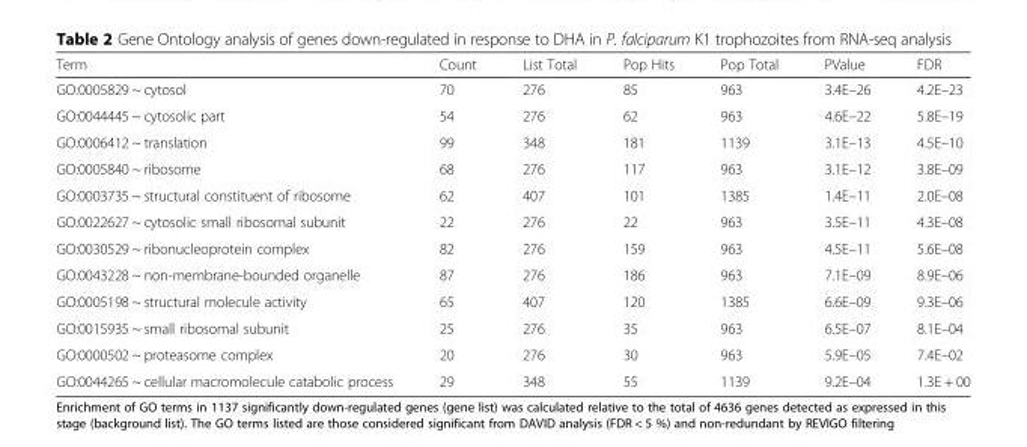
<table><thead><tr><td>Term</td><td>Count</td><td>List Total</td><td>Pop Hits</td><td>Pop Total</td><td>PValue</td><td>FDR</td></tr></thead><tbody><tr><td>GO:0005829 ~ cytosol</td><td>70</td><td>276</td><td>85</td><td>963</td><td>3.4E–26</td><td>4.2E–23</td></tr><tr><td>GO:0044445 ~ cytosolic part</td><td>54</td><td>276</td><td>62</td><td>963</td><td>4.6E–22</td><td>5.8E–19</td></tr><tr><td>GO:0006412 ~ translation</td><td>99</td><td>348</td><td>181</td><td>1139</td><td>3.1E–13</td><td>4.5E–10</td></tr><tr><td>GO:0005840 ~ ribosome</td><td>68</td><td>276</td><td>117</td><td>963</td><td>3.1E–12</td><td>3.8E–09</td></tr><tr><td>GO:0003735 ~ structural constituent of ribosome</td><td>62</td><td>407</td><td>101</td><td>1385</td><td>1.4E–11</td><td>2.0E–08</td></tr><tr><td>GO:0022627 ~ cytosolic small ribosomal subunit</td><td>22</td><td>276</td><td>22</td><td>963</td><td>3.5E–11</td><td>4.3E–08</td></tr><tr><td>GO:0030529 ~ ribonucleoprotein complex</td><td>82</td><td>276</td><td>159</td><td>963</td><td>4.5E–11</td><td>5.6E–08</td></tr><tr><td>GO:0043228 ~ non-membrane-bounded organelle</td><td>87</td><td>276</td><td>186</td><td>963</td><td>7.1E–09</td><td>8.9E–06</td></tr><tr><td>GO:0005198 ~ structural molecule activity</td><td>65</td><td>407</td><td>120</td><td>1385</td><td>6.6E–09</td><td>9.3E–06</td></tr><tr><td>GO:0015935 ~ small ribosomal subunit</td><td>25</td><td>276</td><td>35</td><td>963</td><td>6.5E–07</td><td>8.1E–04</td></tr><tr><td>GO:0000502 ~ proteasome complex</td><td>20</td><td>276</td><td>30</td><td>963</td><td>5.9E–05</td><td>7.4E–02</td></tr><tr><td>GO:0044265 ~ cellular macromolecule catabolic process</td><td>29</td><td>348</td><td>55</td><td>1139</td><td>9.2E–04</td><td>1.3E + 00</td></tr></tbody></table>